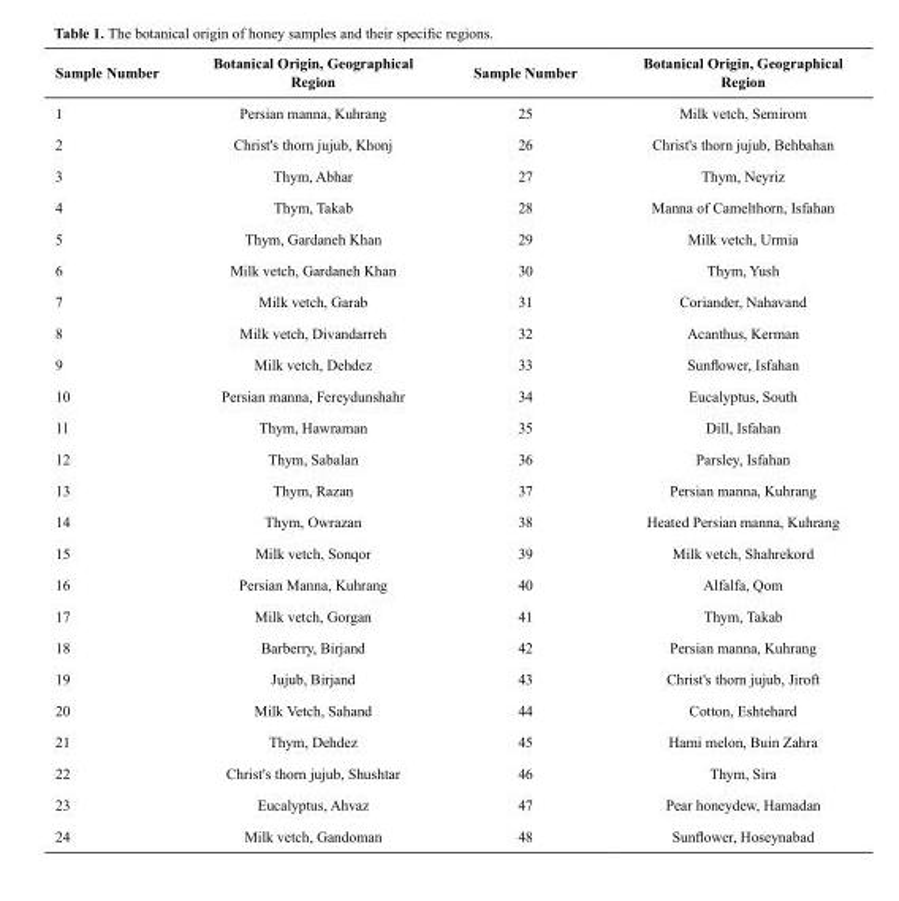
<table><thead><tr><td>Sample Number</td><td>Botanical Origin, Geographical Region</td><td>Sample Number</td><td>Botanical Origin, Geographical Region</td></tr></thead><tbody><tr><td>1</td><td>Persian manna, Kuhrang</td><td>25</td><td>Milk vetch, Semirom</td></tr><tr><td>2</td><td>Christ&#x27;s thorn jujub, Khonj</td><td>26</td><td>Christ&#x27;s thorn jujub, Behbahan</td></tr><tr><td>3</td><td>Thym, Abhar</td><td>27</td><td>Thym, Neyriz</td></tr><tr><td>4</td><td>Thym, Takab</td><td>28</td><td>Manna of Camelthorn, Isfahan</td></tr><tr><td>5</td><td>Thym, Gardaneh Khan</td><td>29</td><td>Milk vetch, Urmia</td></tr><tr><td>6</td><td>Milk vetch, Gardaneh Khan</td><td>30</td><td>Thym, Yush</td></tr><tr><td>7</td><td>Milk vetch, Garab</td><td>31</td><td>Coriander, Nahavand</td></tr><tr><td>8</td><td>Milk vetch, Divandarreh</td><td>32</td><td>Acanthus, Kerman</td></tr><tr><td>9</td><td>Milk vetch, Dehdez</td><td>33</td><td>Sunflower, Isfahan</td></tr><tr><td>10</td><td>Persian manna, Fereydunshahr</td><td>34</td><td>Eucalyptus, South</td></tr><tr><td>11</td><td>Thym, Hawraman</td><td>35</td><td>Dill, Isfahan</td></tr><tr><td>12</td><td>Thym, Sabalan</td><td>36</td><td>Parsley, Isfahan</td></tr><tr><td>13</td><td>Thym, Razan</td><td>37</td><td>Persian manna, Kuhrang</td></tr><tr><td>14</td><td>Thym, Owrazan</td><td>38</td><td>Heated Persian manna, Kuhrang</td></tr><tr><td>15</td><td>Milk vetch, Sonqor</td><td>39</td><td>Milk vetch, Shahrekord</td></tr><tr><td>16</td><td>Persian Manna, Kuhrang</td><td>40</td><td>Alfalfa, Qom</td></tr><tr><td>17</td><td>Milk vetch, Gorgan</td><td>41</td><td>Thym, Takab</td></tr><tr><td>18</td><td>Barberry, Birjand</td><td>42</td><td>Persian manna, Kuhrang</td></tr><tr><td>19</td><td>Jujub, Birjand</td><td>43</td><td>Christ&#x27;s thorn jujub, Jiroft</td></tr><tr><td>20</td><td>Milk Vetch, Sahand</td><td>44</td><td>Cotton, Eshtehard</td></tr><tr><td>21</td><td>Thym, Dehdez</td><td>45</td><td>Hami melon, Buin Zahra</td></tr><tr><td>22</td><td>Christ&#x27;s thorn jujub, Shushtar</td><td>46</td><td>Thym, Sira</td></tr><tr><td>23</td><td>Eucalyptus, Ahvaz</td><td>47</td><td>Pear honeydew, Hamadan</td></tr><tr><td>24</td><td>Milk vetch, Gandoman</td><td>48</td><td>Sunflower, Hoseynabad</td></tr></tbody></table>